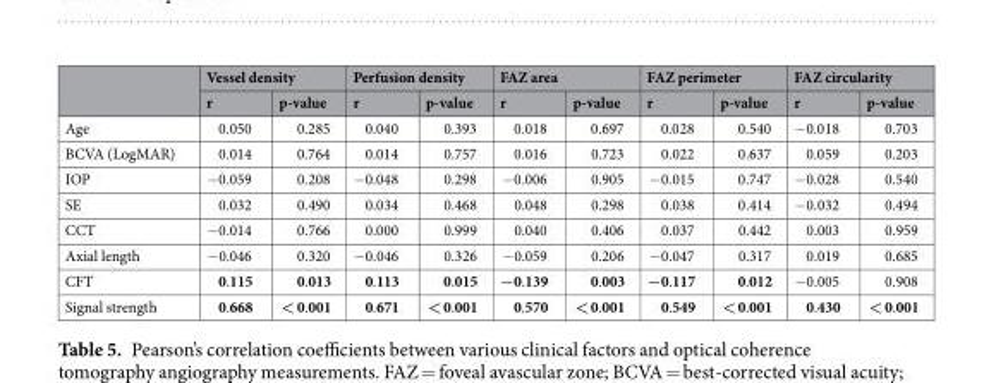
<table><thead><tr><td rowspan="2"></td><td colspan="2">Vessel density</td><td colspan="2">Perfusion density</td><td colspan="2">FAZ area</td><td colspan="2">FAZ perimeter</td><td colspan="2">FAZ circularity</td></tr><tr><td>r</td><td>p-value</td><td>r</td><td>p-value</td><td>r</td><td>p-value</td><td>r</td><td>p-value</td><td>r</td><td>p-value</td></tr></thead><tbody><tr><td>Age</td><td>0.050</td><td>0.285</td><td>0.040</td><td>0.393</td><td>0.018</td><td>0.697</td><td>0.028</td><td>0.540</td><td>−0.018</td><td>0.703</td></tr><tr><td>BCVA (LogMAR)</td><td>0.014</td><td>0.764</td><td>0.014</td><td>0.757</td><td>0.016</td><td>0.723</td><td>0.022</td><td>0.637</td><td>0.059</td><td>0.203</td></tr><tr><td>IOP</td><td>−0.059</td><td>0.208</td><td>−0.048</td><td>0.298</td><td>−0.006</td><td>0.905</td><td>−0.015</td><td>0.747</td><td>−0.028</td><td>0.540</td></tr><tr><td>SE</td><td>0.032</td><td>0.490</td><td>0.034</td><td>0.468</td><td>0.048</td><td>0.298</td><td>0.038</td><td>0.414</td><td>−0.032</td><td>0.494</td></tr><tr><td>CCT</td><td>−0.014</td><td>0.766</td><td>0.000</td><td>0.999</td><td>0.040</td><td>0.406</td><td>0.037</td><td>0.442</td><td>0.003</td><td>0.959</td></tr><tr><td>Axial length</td><td>−0.046</td><td>0.320</td><td>−0.046</td><td>0.326</td><td>−0.059</td><td>0.206</td><td>−0.047</td><td>0.317</td><td>0.019</td><td>0.685</td></tr><tr><td>CFT</td><td>0.115</td><td>0.013</td><td>0.113</td><td>0.015</td><td>−0.139</td><td>0.003</td><td>−0.117</td><td>0.012</td><td>−0.005</td><td>0.908</td></tr><tr><td>Signal strength</td><td>0.668</td><td>&lt; 0.001</td><td>0.671</td><td>&lt; 0.001</td><td>0.570</td><td>&lt; 0.001</td><td>0.549</td><td>&lt; 0.001</td><td>0.430</td><td>&lt; 0.001</td></tr></tbody></table>